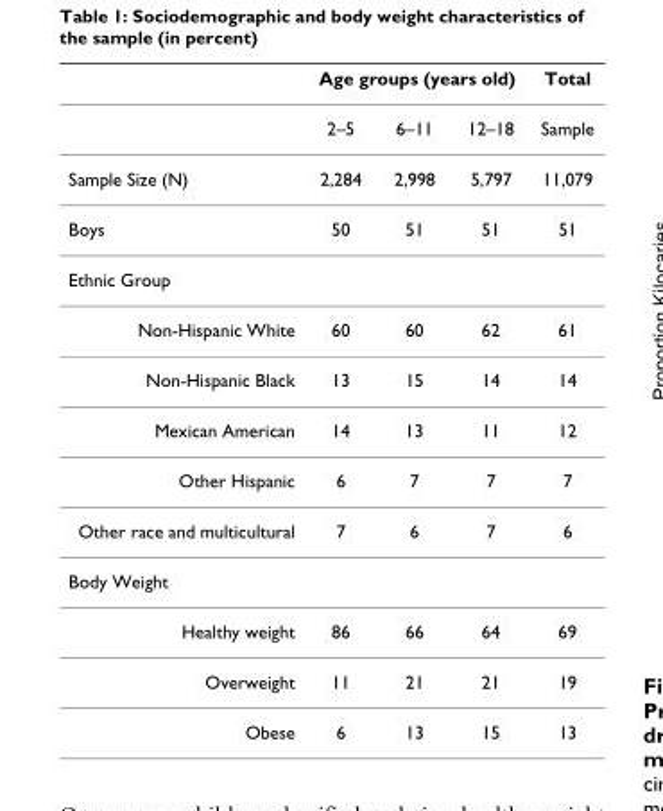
<table><thead><tr><td rowspan="2"></td><td colspan="3">Age groups (years old)</td><td rowspan="2">Total Sample</td></tr><tr><td>2–5</td><td>6–11</td><td>12–18</td></tr></thead><tbody><tr><td>Sample Size (N)</td><td>2,284</td><td>2,998</td><td>5,797</td><td>11,079</td></tr><tr><td>Boys</td><td>50</td><td>51</td><td>51</td><td>51</td></tr><tr><td colspan="5">Ethnic Group</td></tr><tr><td>Non-Hispanic White</td><td>60</td><td>60</td><td>62</td><td>61</td></tr><tr><td>Non-Hispanic Black</td><td>13</td><td>15</td><td>14</td><td>14</td></tr><tr><td>Mexican American</td><td>14</td><td>13</td><td>11</td><td>12</td></tr><tr><td>Other Hispanic</td><td>6</td><td>7</td><td>7</td><td>7</td></tr><tr><td>Other race and multicultural</td><td>7</td><td>6</td><td>7</td><td>6</td></tr><tr><td colspan="5">Body Weight</td></tr><tr><td>Healthy weight</td><td>86</td><td>66</td><td>64</td><td>69</td></tr><tr><td>Overweight</td><td>11</td><td>21</td><td>21</td><td>19</td></tr><tr><td>Obese</td><td>6</td><td>13</td><td>15</td><td>13</td></tr></tbody></table>